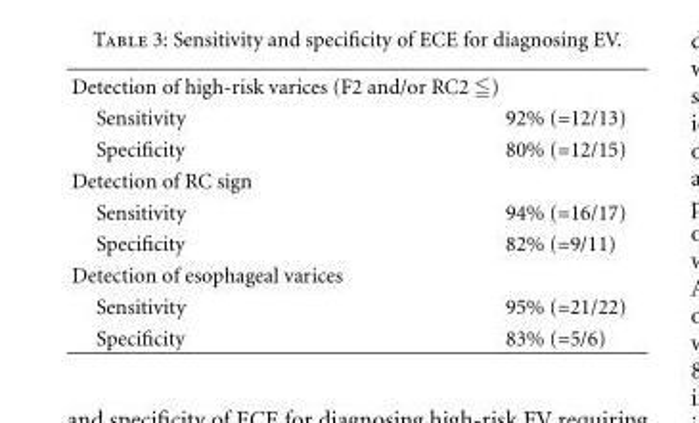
<table><tbody><tr><td colspan="2">Detection of high-risk varices (F2 and/or RC2 ≦)</td></tr><tr><td>Sensitivity</td><td>92% (=12/13)</td></tr><tr><td>Specificity</td><td>80% (=12/15)</td></tr><tr><td colspan="2">Detection of RC sign</td></tr><tr><td>Sensitivity</td><td>94% (=16/17)</td></tr><tr><td>Specificity</td><td>82% (=9/11)</td></tr><tr><td colspan="2">Detection of esophageal varices</td></tr><tr><td>Sensitivity</td><td>95% (=21/22)</td></tr><tr><td>Specificity</td><td>83% (=5/6)</td></tr></tbody></table>